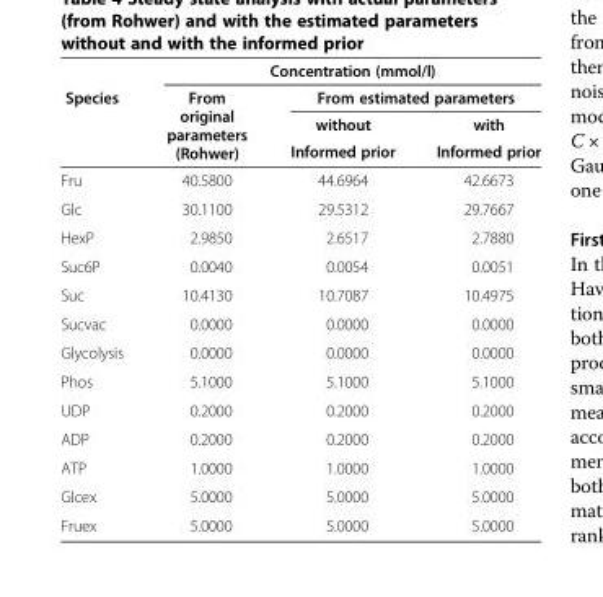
<table><thead><tr><td rowspan="4">Species</td><td colspan="3">Concentration (mmol/l)</td></tr><tr><td rowspan="3">From original parameters (Rohwer)</td><td colspan="2">From estimated parameters</td></tr><tr><td rowspan="2">without Informed prior</td><td rowspan="2">with Informed prior</td></tr><tr></tr></thead><tbody><tr><td>Fru</td><td>40.5800</td><td>44.6964</td><td>42.6673</td></tr><tr><td>Glc</td><td>30.1100</td><td>29.5312</td><td>29.7667</td></tr><tr><td>HexP</td><td>2.9850</td><td>2.6517</td><td>2.7880</td></tr><tr><td>Suc6P</td><td>0.0040</td><td>0.0054</td><td>0.0051</td></tr><tr><td>Suc</td><td>10.4130</td><td>10.7087</td><td>10.4975</td></tr><tr><td>Sucvac</td><td>0.0000</td><td>0.0000</td><td>0.0000</td></tr><tr><td>Glycolysis</td><td>0.0000</td><td>0.0000</td><td>0.0000</td></tr><tr><td>Phos</td><td>5.1000</td><td>5.1000</td><td>5.1000</td></tr><tr><td>UDP</td><td>0.2000</td><td>0.2000</td><td>0.2000</td></tr><tr><td>ADP</td><td>0.2000</td><td>0.2000</td><td>0.2000</td></tr><tr><td>ATP</td><td>1.0000</td><td>1.0000</td><td>1.0000</td></tr><tr><td>Glcex</td><td>5.0000</td><td>5.0000</td><td>5.0000</td></tr><tr><td>Fruex</td><td>5.0000</td><td>5.0000</td><td>5.0000</td></tr></tbody></table>